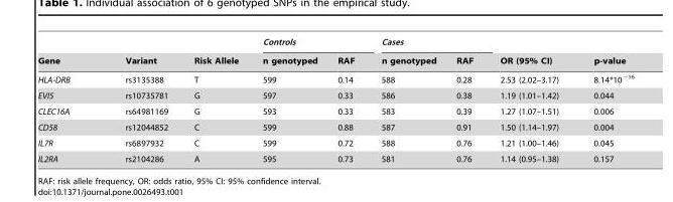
<table><thead><tr><td rowspan="2">Gene</td><td rowspan="2">Variant</td><td rowspan="2">Risk Allele</td><td colspan="2">Controls</td><td colspan="2">Cases</td><td rowspan="2">OR (95% CI)</td><td rowspan="2">p-value</td></tr><tr><td>n genotyped</td><td>RAF</td><td>n genotyped</td><td>RAF</td></tr></thead><tbody><tr><td>HLA-DRB</td><td>rs3135388</td><td>T</td><td>599</td><td>0.14</td><td>588</td><td>0.28</td><td>2.53 (2.02–3.17)</td><td>8.14*10<sup>−16</sup></td></tr><tr><td>EVI5</td><td>rs10735781</td><td>G</td><td>597</td><td>0.33</td><td>586</td><td>0.38</td><td>1.19 (1.01–1.42)</td><td>0.044</td></tr><tr><td>CLEC16A</td><td>rs64981169</td><td>G</td><td>593</td><td>0.33</td><td>583</td><td>0.39</td><td>1.27 (1.07–1.51)</td><td>0.006</td></tr><tr><td>CD58</td><td>rs12044852</td><td>C</td><td>599</td><td>0.88</td><td>587</td><td>0.91</td><td>1.50 (1.14–1.97)</td><td>0.004</td></tr><tr><td>IL7R</td><td>rs6897932</td><td>C</td><td>599</td><td>0.72</td><td>588</td><td>0.76</td><td>1.21 (1.00–1.46)</td><td>0.045</td></tr><tr><td>IL2RA</td><td>rs2104286</td><td>A</td><td>595</td><td>0.73</td><td>581</td><td>0.76</td><td>1.14 (0.95–1.38)</td><td>0.157</td></tr></tbody></table>